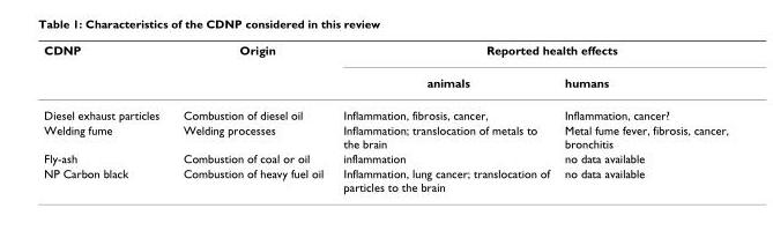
<table><thead><tr><td rowspan="2">CDNP</td><td rowspan="2">Origin</td><td colspan="2">Reported health effects</td></tr><tr><td>animals</td><td>humans</td></tr></thead><tbody><tr><td>Diesel exhaust particles</td><td>Combustion of diesel oil</td><td>Inflammation, fibrosis, cancer,</td><td>Inflammation, cancer?</td></tr><tr><td>Welding fume</td><td>Welding processes</td><td>Inflammation; translocation of metals to the brain</td><td>Metal fume fever, fibrosis, cancer, bronchitis</td></tr><tr><td>Fly-ash</td><td>Combustion of coal or oil</td><td>inflammation</td><td>no data available</td></tr><tr><td>NP Carbon black</td><td>Combustion of heavy fuel oil</td><td>Inflammation, lung cancer; translocation of particles to the brain</td><td>no data available</td></tr></tbody></table>